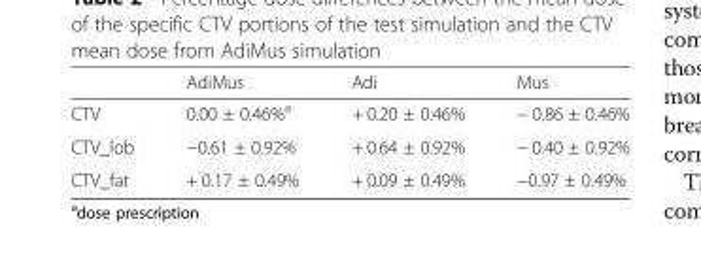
<table><thead><tr><td></td><td>AdiMus</td><td>Adi</td><td>Mus</td></tr></thead><tbody><tr><td>CTV</td><td>0.00 ± 0.46%<sup>a</sup></td><td>+ 0.20 ± 0.46%</td><td>− 0.86 ± 0.46%</td></tr><tr><td>CTV_lob</td><td>−0.61 ± 0.92%</td><td>+ 0.64 ± 0.92%</td><td>− 0.40 ± 0.92%</td></tr><tr><td>CTV_fat</td><td>+ 0.17 ± 0.49%</td><td>+ 0.09 ± 0.49%</td><td>−0.97 ± 0.49%</td></tr></tbody></table>